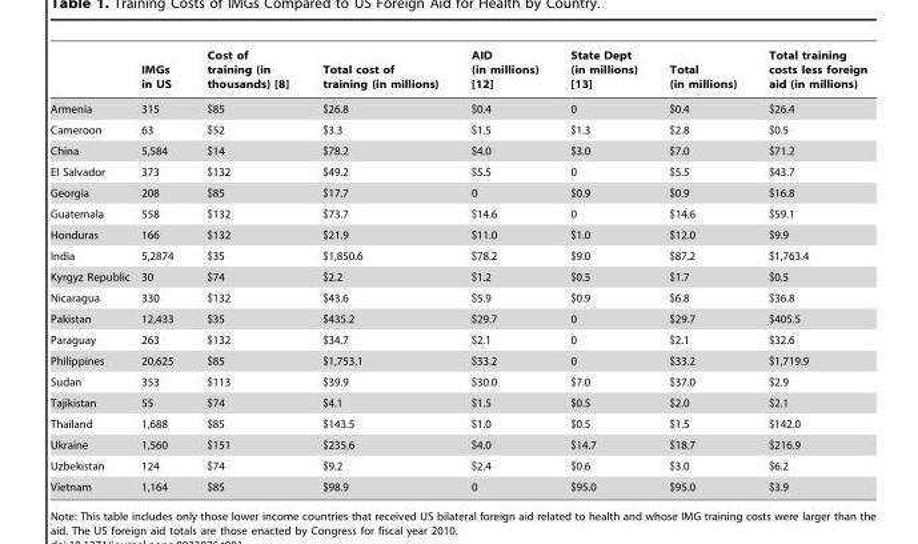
<table><thead><tr><td></td><td>IMGs in US</td><td>Cost of training (in thousands) [8]</td><td>Total cost of training (in millions)</td><td>AID (in millions) [12]</td><td>State Dept (in millions) [13]</td><td>Total (in millions)</td><td>Total training costs less foreign aid (in millions)</td></tr></thead><tbody><tr><td>Armenia</td><td>315</td><td>$85</td><td>$26.8</td><td>$0.4</td><td>0</td><td>$0.4</td><td>$26.4</td></tr><tr><td>Cameroon</td><td>63</td><td>$52</td><td>$3.3</td><td>$1.5</td><td>$1.3</td><td>$2.8</td><td>$0.5</td></tr><tr><td>China</td><td>5,584</td><td>$14</td><td>$78.2</td><td>$4.0</td><td>$3.0</td><td>$7.0</td><td>$71.2</td></tr><tr><td>El Salvador</td><td>373</td><td>$132</td><td>$49.2</td><td>$5.5</td><td>0</td><td>$5.5</td><td>$43.7</td></tr><tr><td>Georgia</td><td>208</td><td>$85</td><td>$17.7</td><td>0</td><td>$0.9</td><td>$0.9</td><td>$16.8</td></tr><tr><td>Guatemala</td><td>558</td><td>$132</td><td>$73.7</td><td>$14.6</td><td>0</td><td>$14.6</td><td>$59.1</td></tr><tr><td>Honduras</td><td>166</td><td>$132</td><td>$21.9</td><td>$11.0</td><td>$1.0</td><td>$12.0</td><td>$9.9</td></tr><tr><td>India</td><td>5,2874</td><td>$35</td><td>$1,850.6</td><td>$78.2</td><td>$9.0</td><td>$87.2</td><td>$1,763.4</td></tr><tr><td>Kyrgyz Republic</td><td>30</td><td>$74</td><td>$2.2</td><td>$1.2</td><td>$0.5</td><td>$1.7</td><td>$0.5</td></tr><tr><td>Nicaragua</td><td>330</td><td>$132</td><td>$43.6</td><td>$5.9</td><td>$0.9</td><td>$6.8</td><td>$36.8</td></tr><tr><td>Pakistan</td><td>12,433</td><td>$35</td><td>$435.2</td><td>$29.7</td><td>0</td><td>$29.7</td><td>$405.5</td></tr><tr><td>Paraguay</td><td>263</td><td>$132</td><td>$34.7</td><td>$2.1</td><td>0</td><td>$2.1</td><td>$32.6</td></tr><tr><td>Philippines</td><td>20,625</td><td>$85</td><td>$1,753.1</td><td>$33.2</td><td>0</td><td>$33.2</td><td>$1,719.9</td></tr><tr><td>Sudan</td><td>353</td><td>$113</td><td>$39.9</td><td>$30.0</td><td>$7.0</td><td>$37.0</td><td>$2.9</td></tr><tr><td>Tajikistan</td><td>55</td><td>$74</td><td>$4.1</td><td>$1.5</td><td>$0.5</td><td>$2.0</td><td>$2.1</td></tr><tr><td>Thailand</td><td>1,688</td><td>$85</td><td>$143.5</td><td>$1.0</td><td>$0.5</td><td>$1.5</td><td>$142.0</td></tr><tr><td>Ukraine</td><td>1,560</td><td>$151</td><td>$235.6</td><td>$4.0</td><td>$14.7</td><td>$18.7</td><td>$216.9</td></tr><tr><td>Uzbekistan</td><td>124</td><td>$74</td><td>$9.2</td><td>$2.4</td><td>$0.6</td><td>$3.0</td><td>$6.2</td></tr><tr><td>Vietnam</td><td>1,164</td><td>$85</td><td>$98.9</td><td>0</td><td>$95.0</td><td>$95.0</td><td>$3.9</td></tr></tbody></table>